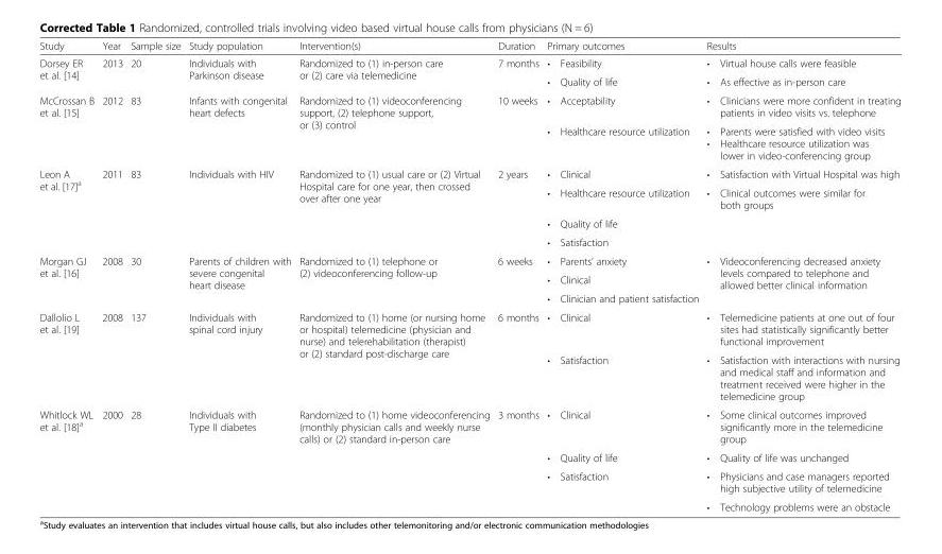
<table><thead><tr><td>Study</td><td>Year</td><td>Sample size</td><td>Study population</td><td>Intervention(s)</td><td>Duration</td><td>Primary outcomes</td><td>Results</td></tr></thead><tbody><tr><td rowspan="2">Dorsey ER et al. [14]</td><td rowspan="2">2013</td><td rowspan="2">20</td><td rowspan="2">Individuals with Parkinson disease</td><td rowspan="2">Randomized to (1) in-person care or (2) care via telemedicine</td><td rowspan="2">7 months</td><td>• Feasibility</td><td>• Virtual house calls were feasible</td></tr><tr><td>• Quality of life</td><td>• As effective as in-person care</td></tr><tr><td rowspan="2">McCrossan B et al. [15]</td><td rowspan="2">2012</td><td rowspan="2">83</td><td rowspan="2">Infants with congenital heart defects</td><td rowspan="2">Randomized to (1) videoconferencing support, (2) telephone support, or (3) control</td><td rowspan="2">10 weeks</td><td>• Acceptability</td><td>• Clinicians were more confident in treating patients in video visits vs. telephone</td></tr><tr><td>• Healthcare resource utilization</td><td>• Parents were satisfied with video visits • Healthcare resource utilization was lower in video-conferencing group</td></tr><tr><td rowspan="4">Leon A et al. [17]<sup>a</sup></td><td rowspan="4">2011</td><td rowspan="4">83</td><td rowspan="4">Individuals with HIV</td><td rowspan="4">Randomized to (1) usual care or (2) Virtual Hospital care for one year, then crossed over after one year</td><td rowspan="4">2 years</td><td>• Clinical</td><td>• Satisfaction with Virtual Hospital was high</td></tr><tr><td>• Healthcare resource utilization</td><td>• Clinical outcomes were similar for both groups</td></tr><tr><td>• Quality of life</td><td rowspan="2"></td></tr><tr><td>• Satisfaction</td></tr><tr><td rowspan="3">Morgan GJ et al. [16]</td><td rowspan="3">2008</td><td rowspan="3">30</td><td rowspan="3">Parents of children with severe congenital heart disease</td><td rowspan="3">Randomized to (1) telephone or (2) videoconferencing follow-up</td><td rowspan="3">6 weeks</td><td>• Parents’ anxiety</td><td rowspan="3">• Videoconferencing decreased anxiety levels compared to telephone and allowed better clinical information</td></tr><tr><td>• Clinical</td></tr><tr><td>• Clinician and patient satisfaction</td></tr><tr><td rowspan="2">Dallolio L et al. [19]</td><td rowspan="2">2008</td><td rowspan="2">137</td><td rowspan="2">Individuals with spinal cord injury</td><td rowspan="2">Randomized to (1) home (or nursing home or hospital) telemedicine (physician and nurse) and telerehabilitation (therapist) or (2) standard post-discharge care</td><td rowspan="2">6 months</td><td>• Clinical</td><td>• Telemedicine patients at one out of four sites had statistically significantly better functional improvement</td></tr><tr><td>• Satisfaction</td><td>• Satisfaction with interactions with nursing and medical staff and information and treatment received were higher in the telemedicine group</td></tr><tr><td rowspan="4">Whitlock WL et al. [18]<sup>a</sup></td><td rowspan="4">2000</td><td rowspan="4">28</td><td rowspan="4">Individuals with Type II diabetes</td><td rowspan="4">Randomized to (1) home videoconferencing (monthly physician calls and weekly nurse calls) or (2) standard in-person care</td><td rowspan="4">3 months</td><td>• Clinical</td><td>• Some clinical outcomes improved significantly more in the telemedicine group</td></tr><tr><td>• Quality of life</td><td>• Quality of life was unchanged</td></tr><tr><td rowspan="2">• Satisfaction</td><td>• Physicians and case managers reported high subjective utility of telemedicine</td></tr><tr><td>• Technology problems were an obstacle</td></tr></tbody></table>